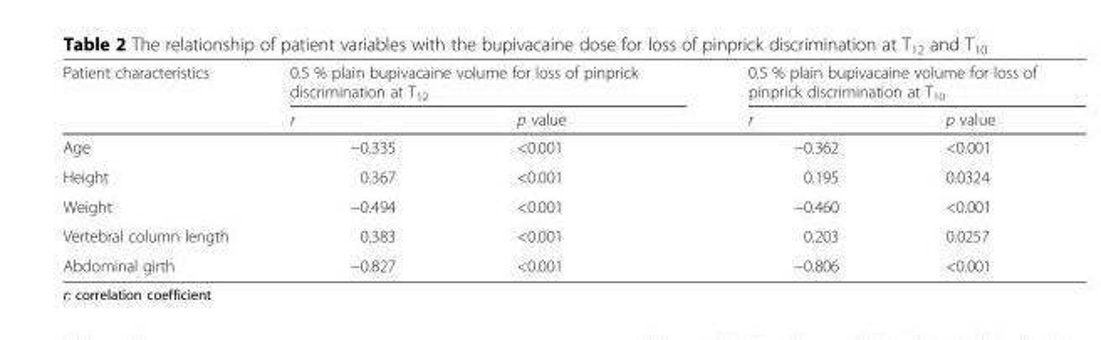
<table><thead><tr><td rowspan="2">Patient characteristics</td><td colspan="2">0.5 % plain bupivacaine volume for loss of pinprick discrimination at T<sub>12</sub></td><td colspan="2">0.5 % plain bupivacaine volume for loss of pinprick discrimination at T<sub>10</sub></td></tr><tr><td>r</td><td>p value</td><td>r</td><td>p value</td></tr></thead><tbody><tr><td>Age</td><td>−0.335</td><td>&lt;0.001</td><td>−0.362</td><td>&lt;0.001</td></tr><tr><td>Height</td><td>0.367</td><td>&lt;0.001</td><td>0.195</td><td>0.0324</td></tr><tr><td>Weight</td><td>−0.494</td><td>&lt;0.001</td><td>−0.460</td><td>&lt;0.001</td></tr><tr><td>Vertebral column length</td><td>0.383</td><td>&lt;0.001</td><td>0.203</td><td>0.0257</td></tr><tr><td>Abdominal girth</td><td>−0.827</td><td>&lt;0.001</td><td>−0.806</td><td>&lt;0.001</td></tr></tbody></table>